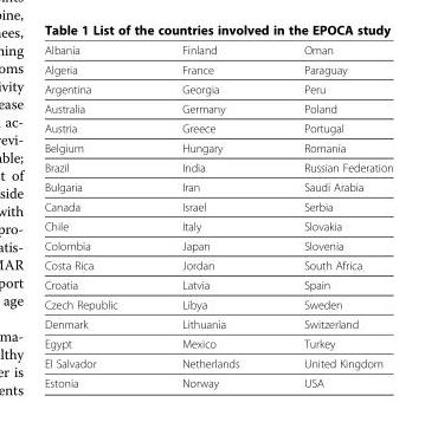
<table><tbody><tr><td>Albania</td><td>Finland</td><td>Oman</td></tr><tr><td>Algeria</td><td>France</td><td>Paraguay</td></tr><tr><td>Argentina</td><td>Georgia</td><td>Peru</td></tr><tr><td>Australia</td><td>Germany</td><td>Poland</td></tr><tr><td>Austria</td><td>Greece</td><td>Portugal</td></tr><tr><td>Belgium</td><td>Hungary</td><td>Romania</td></tr><tr><td>Brazil</td><td>India</td><td>Russian Federation</td></tr><tr><td>Bulgaria</td><td>Iran</td><td>Saudi Arabia</td></tr><tr><td>Canada</td><td>Israel</td><td>Serbia</td></tr><tr><td>Chile</td><td>Italy</td><td>Slovakia</td></tr><tr><td>Colombia</td><td>Japan</td><td>Slovenia</td></tr><tr><td>Costa Rica</td><td>Jordan</td><td>South Africa</td></tr><tr><td>Croatia</td><td>Latvia</td><td>Spain</td></tr><tr><td>Czech Republic</td><td>Libya</td><td>Sweden</td></tr><tr><td>Denmark</td><td>Lithuania</td><td>Switzerland</td></tr><tr><td>Egypt</td><td>Mexico</td><td>Turkey</td></tr><tr><td>El Salvador</td><td>Netherlands</td><td>United Kingdom</td></tr><tr><td>Estonia</td><td>Norway</td><td>USA</td></tr></tbody></table>